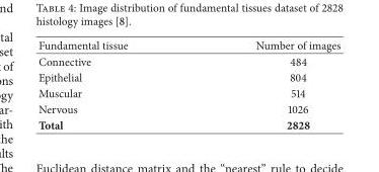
<table><thead><tr><td>Fundamental tissue</td><td>Number of images</td></tr></thead><tbody><tr><td>Connective</td><td>484</td></tr><tr><td>Epithelial</td><td>804</td></tr><tr><td>Muscular</td><td>514</td></tr><tr><td>Nervous</td><td>1026</td></tr><tr><td>Total</td><td>2828</td></tr></tbody></table>